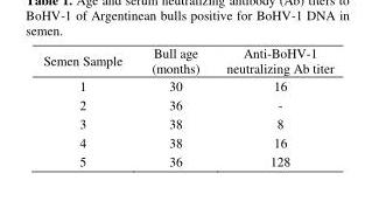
<table><thead><tr><td>Semen Sample</td><td>Bull age (months)</td><td>Anti-BoHV-1 neutralizing Ab titer</td></tr></thead><tbody><tr><td>1</td><td>30</td><td>16</td></tr><tr><td>2</td><td>36</td><td>-</td></tr><tr><td>3</td><td>38</td><td>8</td></tr><tr><td>4</td><td>38</td><td>16</td></tr><tr><td>5</td><td>36</td><td>128</td></tr></tbody></table>